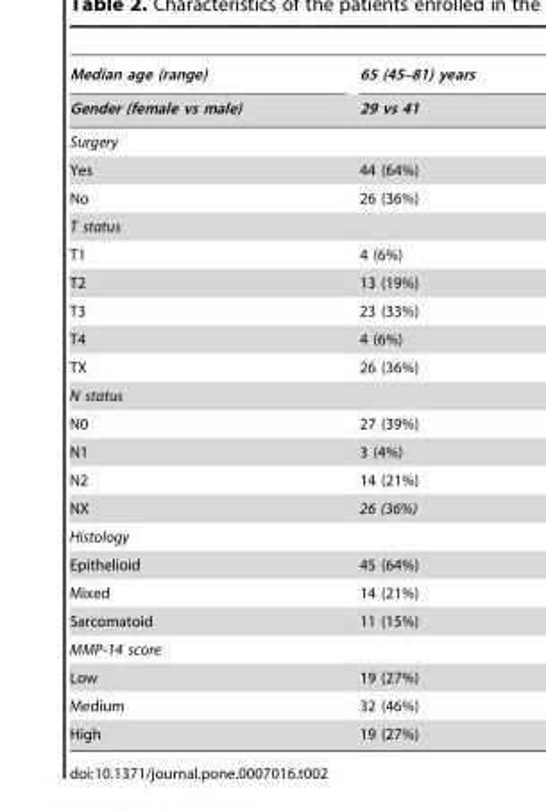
<table><thead><tr><td rowspan="2">Median age (range) Gender (female vs male)</td><td rowspan="2">65 (45–81) years 29 vs 41</td></tr><tr></tr></thead><tbody><tr><td colspan="2">Surgery</td></tr><tr><td>Yes</td><td>44 (64%)</td></tr><tr><td>No</td><td>26 (36%)</td></tr><tr><td colspan="2">T status</td></tr><tr><td>T1</td><td>4 (6%)</td></tr><tr><td>T2</td><td>13 (19%)</td></tr><tr><td>T3</td><td>23 (33%)</td></tr><tr><td>T4</td><td>4 (6%)</td></tr><tr><td>TX</td><td>26 (36%)</td></tr><tr><td colspan="2">N status</td></tr><tr><td>N0</td><td>27 (39%)</td></tr><tr><td>N1</td><td>3 (4%)</td></tr><tr><td>N2</td><td>14 (21%)</td></tr><tr><td>NX</td><td>26 (36%)</td></tr><tr><td colspan="2">Histology</td></tr><tr><td>Epithelioid</td><td>45 (64%)</td></tr><tr><td>Mixed</td><td>14 (21%)</td></tr><tr><td>Sarcomatoid</td><td>11 (15%)</td></tr><tr><td colspan="2">MMP-14 score</td></tr><tr><td>Low</td><td>19 (27%)</td></tr><tr><td>Medium</td><td>32 (46%)</td></tr><tr><td>High</td><td>19 (27%)</td></tr></tbody></table>